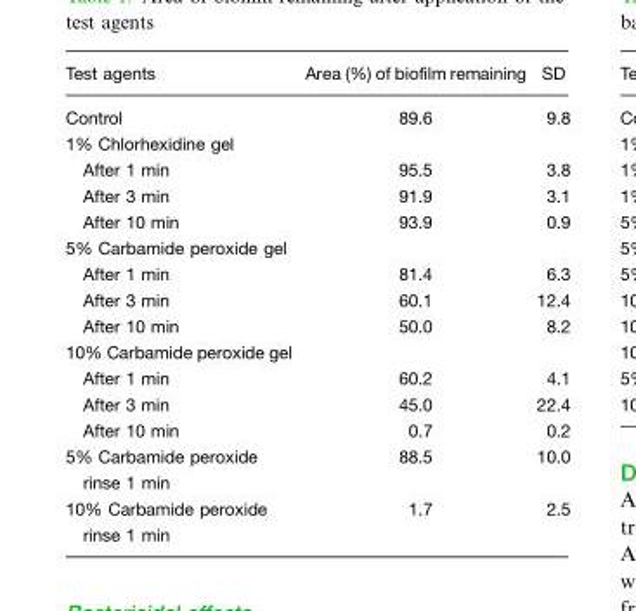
<table><thead><tr><td>Test agents</td><td>Area (%) of biofilm remaining</td><td>SD</td></tr></thead><tbody><tr><td>Control</td><td>89.6</td><td>9.8</td></tr><tr><td colspan="3">1% Chlorhexidine gel</td></tr><tr><td>After 1 min</td><td>95.5</td><td>3.8</td></tr><tr><td>After 3 min</td><td>91.9</td><td>3.1</td></tr><tr><td>After 10 min</td><td>93.9</td><td>0.9</td></tr><tr><td colspan="3">5% Carbamide peroxide gel</td></tr><tr><td>After 1 min</td><td>81.4</td><td>6.3</td></tr><tr><td>After 3 min</td><td>60.1</td><td>12.4</td></tr><tr><td>After 10 min</td><td>50.0</td><td>8.2</td></tr><tr><td colspan="3">10% Carbamide peroxide gel</td></tr><tr><td>After 1 min</td><td>60.2</td><td>4.1</td></tr><tr><td>After 3 min</td><td>45.0</td><td>22.4</td></tr><tr><td>After 10 min</td><td>0.7</td><td>0.2</td></tr><tr><td>5% Carbamide peroxide rinse 1 min</td><td>88.5</td><td>10.0</td></tr><tr><td>10% Carbamide peroxide rinse 1 min</td><td>1.7</td><td>2.5</td></tr></tbody></table>